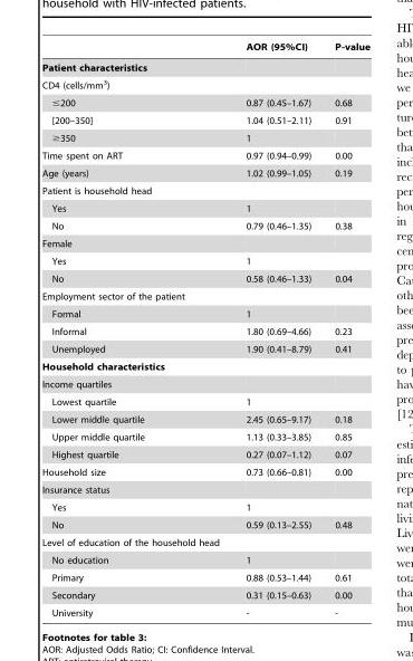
<table><thead><tr><td></td><td>AOR (95%CI)</td><td>P-value</td></tr></thead><tbody><tr><td colspan="3">Patient characteristics</td></tr><tr><td colspan="3">CD4 (cells/mm<sup>3</sup>)</td></tr><tr><td>≤200</td><td>0.87 (0.45–1.67)</td><td>0.68</td></tr><tr><td>[200–350]</td><td>1.04 (0.51–2.11)</td><td>0.91</td></tr><tr><td>≥350</td><td>1</td><td></td></tr><tr><td>Time spent on ART</td><td>0.97 (0.94–0.99)</td><td>0.00</td></tr><tr><td>Age (years)</td><td>1.02 (0.99–1.05)</td><td>0.19</td></tr><tr><td colspan="3">Patient is household head</td></tr><tr><td>Yes</td><td>1</td><td></td></tr><tr><td>No</td><td>0.79 (0.46–1.35)</td><td>0.38</td></tr><tr><td colspan="3">Female</td></tr><tr><td>Yes</td><td>1</td><td></td></tr><tr><td>No</td><td>0.58 (0.46–1.33)</td><td>0.04</td></tr><tr><td colspan="3">Employment sector of the patient</td></tr><tr><td>Formal</td><td>1</td><td></td></tr><tr><td>Informal</td><td>1.80 (0.69–4.66)</td><td>0.23</td></tr><tr><td>Unemployed</td><td>1.90 (0.41–8.79)</td><td>0.41</td></tr><tr><td colspan="3">Household characteristics</td></tr><tr><td colspan="3">Income quartiles</td></tr><tr><td>Lowest quartile</td><td>1</td><td></td></tr><tr><td>Lower middle quartile</td><td>2.45 (0.65–9.17)</td><td>0.18</td></tr><tr><td>Upper middle quartile</td><td>1.13 (0.33–3.85)</td><td>0.85</td></tr><tr><td>Highest quartile</td><td>0.27 (0.07–1.12)</td><td>0.07</td></tr><tr><td>Household size</td><td>0.73 (0.66–0.81)</td><td>0.00</td></tr><tr><td colspan="3">Insurance status</td></tr><tr><td>Yes</td><td>1</td><td></td></tr><tr><td>No</td><td>0.59 (0.13–2.55)</td><td>0.48</td></tr><tr><td colspan="3">Level of education of the household head</td></tr><tr><td>No education</td><td>1</td><td></td></tr><tr><td>Primary</td><td>0.88 (0.53–1.44)</td><td>0.61</td></tr><tr><td>Secondary</td><td>0.31 (0.15–0.63)</td><td>0.00</td></tr><tr><td>University</td><td>-</td><td>-</td></tr></tbody></table>